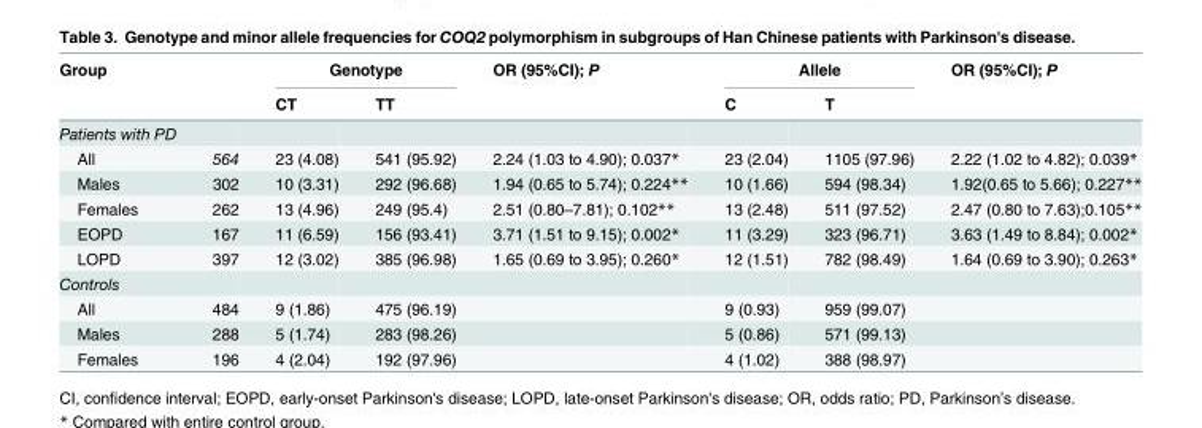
<table><thead><tr><td rowspan="2">Group</td><td rowspan="2"></td><td colspan="2">Genotype</td><td rowspan="2">OR (95%CI); P</td><td colspan="2">Allele</td><td rowspan="2">OR (95%CI); P</td></tr><tr><td>CT</td><td>TT</td><td>C</td><td>T</td></tr></thead><tbody><tr><td colspan="8">Patients with PD</td></tr><tr><td>All</td><td>564</td><td>23 (4.08)</td><td>541 (95.92)</td><td>2.24 (1.03 to 4.90); 0.037*</td><td>23 (2.04)</td><td>1105 (97.96)</td><td>2.22 (1.02 to 4.82); 0.039*</td></tr><tr><td>Males</td><td>302</td><td>10 (3.31)</td><td>292 (96.68)</td><td>1.94 (0.65 to 5.74); 0.224**</td><td>10 (1.66)</td><td>594 (98.34)</td><td>1.92(0.65 to 5.66); 0.227**</td></tr><tr><td>Females</td><td>262</td><td>13 (4.96)</td><td>249 (95.4)</td><td>2.51 (0.80–7.81); 0.102**</td><td>13 (2.48)</td><td>511 (97.52)</td><td>2.47 (0.80 to 7.63);0.105**</td></tr><tr><td>EOPD</td><td>167</td><td>11 (6.59)</td><td>156 (93.41)</td><td>3.71 (1.51 to 9.15); 0.002*</td><td>11 (3.29)</td><td>323 (96.71)</td><td>3.63 (1.49 to 8.84); 0.002*</td></tr><tr><td>LOPD</td><td>397</td><td>12 (3.02)</td><td>385 (96.98)</td><td>1.65 (0.69 to 3.95); 0.260*</td><td>12 (1.51)</td><td>782 (98.49)</td><td>1.64 (0.69 to 3.90); 0.263*</td></tr><tr><td colspan="8">Controls</td></tr><tr><td>All</td><td>484</td><td>9 (1.86)</td><td>475 (96.19)</td><td></td><td>9 (0.93)</td><td>959 (99.07)</td><td></td></tr><tr><td>Males</td><td>288</td><td>5 (1.74)</td><td>283 (98.26)</td><td></td><td>5 (0.86)</td><td>571 (99.13)</td><td></td></tr><tr><td>Females</td><td>196</td><td>4 (2.04)</td><td>192 (97.96)</td><td></td><td>4 (1.02)</td><td>388 (98.97)</td><td></td></tr></tbody></table>